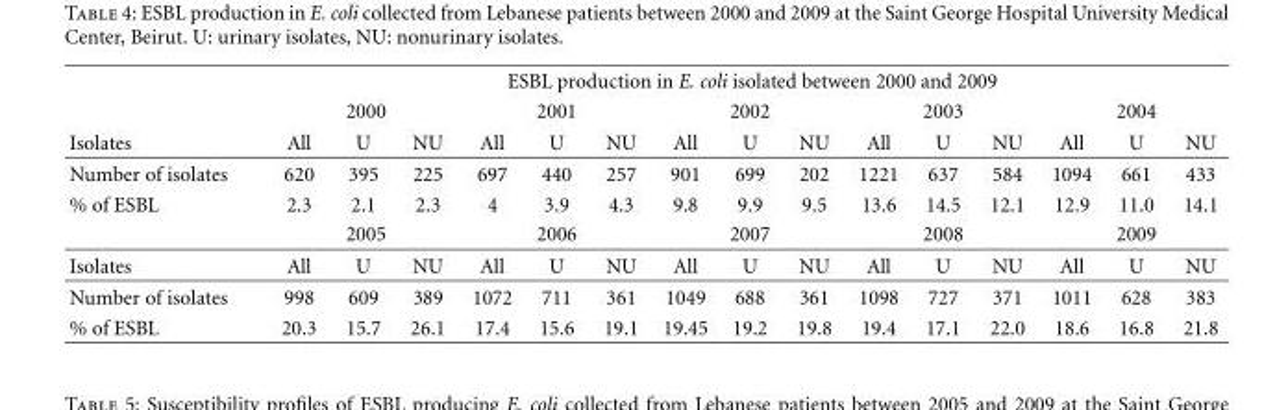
<table><thead><tr><td rowspan="3">Isolates</td><td colspan="15">ESBL production in E. coli isolated between 2000 and 2009</td></tr><tr><td colspan="3">2000</td><td colspan="3">2001</td><td colspan="3">2002</td><td colspan="3">2003</td><td colspan="3">2004</td></tr><tr><td>All</td><td>U</td><td>NU</td><td>All</td><td>U</td><td>NU</td><td>All</td><td>U</td><td>NU</td><td>All</td><td>U</td><td>NU</td><td>All</td><td>U</td><td>NU</td></tr></thead><tbody><tr><td>Number of isolates</td><td>620</td><td>395</td><td>225</td><td>697</td><td>440</td><td>257</td><td>901</td><td>699</td><td>202</td><td>1221</td><td>637</td><td>584</td><td>1094</td><td>661</td><td>433</td></tr><tr><td rowspan="2">% of ESBL</td><td>2.3</td><td>2.1</td><td>2.3</td><td>4</td><td>3.9</td><td>4.3</td><td>9.8</td><td>9.9</td><td>9.5</td><td>13.6</td><td>14.5</td><td>12.1</td><td>12.9</td><td>11.0</td><td>14.1</td></tr><tr><td colspan="3">2005</td><td colspan="3">2006</td><td colspan="3">2007</td><td colspan="3">2008</td><td colspan="3">2009</td></tr><tr><td>Isolates</td><td>All</td><td>U</td><td>NU</td><td>All</td><td>U</td><td>NU</td><td>All</td><td>U</td><td>NU</td><td>All</td><td>U</td><td>NU</td><td>All</td><td>U</td><td>NU</td></tr><tr><td>Number of isolates</td><td>998</td><td>609</td><td>389</td><td>1072</td><td>711</td><td>361</td><td>1049</td><td>688</td><td>361</td><td>1098</td><td>727</td><td>371</td><td>1011</td><td>628</td><td>383</td></tr><tr><td>% of ESBL</td><td>20.3</td><td>15.7</td><td>26.1</td><td>17.4</td><td>15.6</td><td>19.1</td><td>19.45</td><td>19.2</td><td>19.8</td><td>19.4</td><td>17.1</td><td>22.0</td><td>18.6</td><td>16.8</td><td>21.8</td></tr></tbody></table>